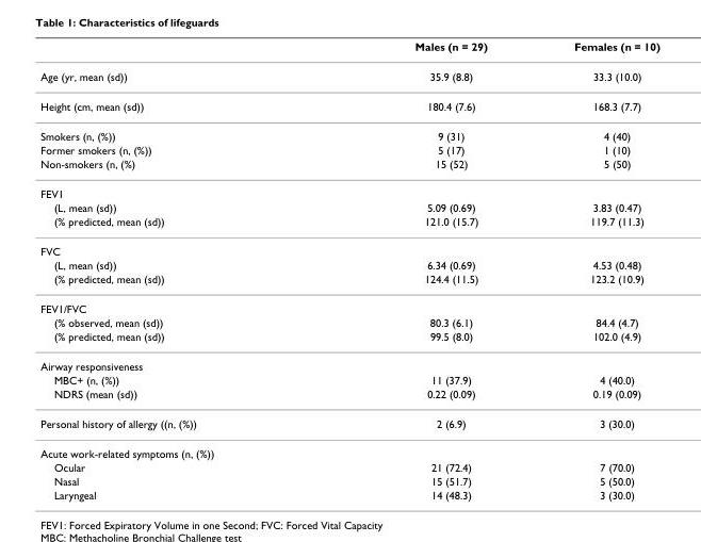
<table><thead><tr><td></td><td>Males (n = 29)</td><td>Females (n = 10)</td></tr></thead><tbody><tr><td>Age (yr, mean (sd))</td><td>35.9 (8.8)</td><td>33.3 (10.0)</td></tr><tr><td>Height (cm, mean (sd))</td><td>180.4 (7.6)</td><td>168.3 (7.7)</td></tr><tr><td>Smokers (n, (%))</td><td>9 (31)</td><td>4 (40)</td></tr><tr><td>Former smokers (n, (%))</td><td>5 (17)</td><td>1 (10)</td></tr><tr><td>Non-smokers (n, (%)</td><td>15 (52)</td><td>5 (50)</td></tr><tr><td colspan="3">FEV1</td></tr><tr><td>(L, mean (sd))</td><td>5.09 (0.69)</td><td>3.83 (0.47)</td></tr><tr><td>(% predicted, mean (sd))</td><td>121.0 (15.7)</td><td>119.7 (11.3)</td></tr><tr><td colspan="3">FVC</td></tr><tr><td>(L, mean (sd))</td><td>6.34 (0.69)</td><td>4.53 (0.48)</td></tr><tr><td>(% predicted, mean (sd))</td><td>124.4 (11.5)</td><td>123.2 (10.9)</td></tr><tr><td colspan="3">FEV1/FVC</td></tr><tr><td>(% observed, mean (sd))</td><td>80.3 (6.1)</td><td>84.4 (4.7)</td></tr><tr><td>(% predicted, mean (sd))</td><td>99.5 (8.0)</td><td>102.0 (4.9)</td></tr><tr><td colspan="3">Airway responsiveness</td></tr><tr><td>MBC+ (n, (%))</td><td>11 (37.9)</td><td>4 (40.0)</td></tr><tr><td>NDRS (mean (sd))</td><td>0.22 (0.09)</td><td>0.19 (0.09)</td></tr><tr><td>Personal history of allergy ((n, (%))</td><td>2 (6.9)</td><td>3 (30.0)</td></tr><tr><td colspan="3">Acute work-related symptoms (n, (%))</td></tr><tr><td>Ocular</td><td>21 (72.4)</td><td>7 (70.0)</td></tr><tr><td>Nasal</td><td>15 (51.7)</td><td>5 (50.0)</td></tr><tr><td>Laryngeal</td><td>14 (48.3)</td><td>3 (30.0)</td></tr></tbody></table>